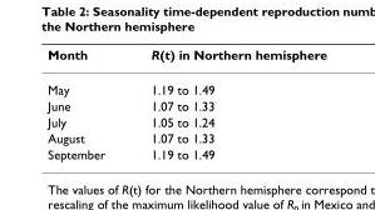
<table><thead><tr><td>Month</td><td>R(t) in Northern hemisphere</td></tr></thead><tbody><tr><td>May</td><td>1.19 to 1.49</td></tr><tr><td>June</td><td>1.07 to 1.33</td></tr><tr><td>July</td><td>1.05 to 1.24</td></tr><tr><td>August</td><td>1.07 to 1.33</td></tr><tr><td>September</td><td>1.19 to 1.49</td></tr></tbody></table>